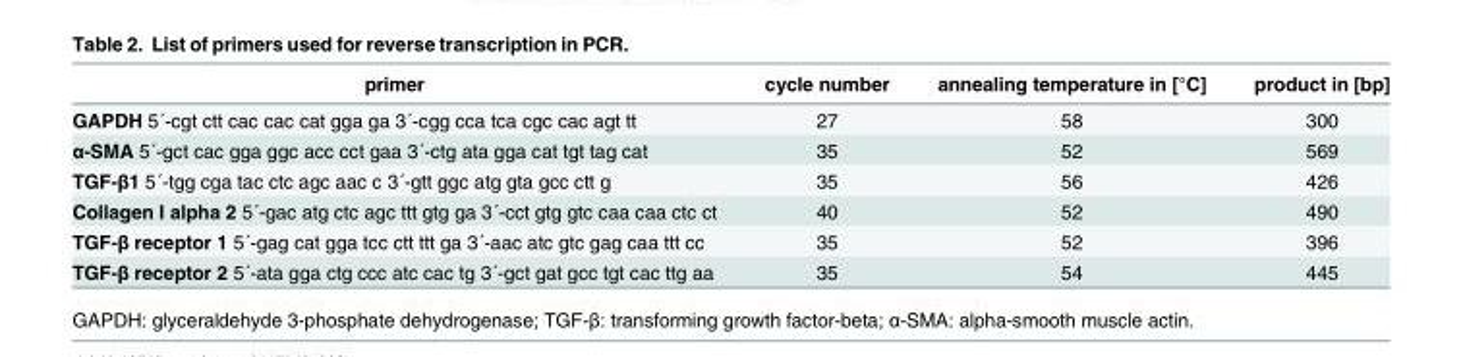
<table><thead><tr><td>primer</td><td>cycle number</td><td>annealing temperature in [°C]</td><td>product in [bp]</td></tr></thead><tbody><tr><td>GAPDH 5´-cgt ctt cac cac cat gga ga 3´-cgg cca tca cgc cac agt tt</td><td>27</td><td>58</td><td>300</td></tr><tr><td>α-SMA 5´-gct cac gga ggc acc cct gaa 3´-ctg ata gga cat tgt tag cat</td><td>35</td><td>52</td><td>569</td></tr><tr><td>TGF-β1 5´-tgg cga tac ctc agc aac c 3´-gtt ggc atg gta gcc ctt g</td><td>35</td><td>56</td><td>426</td></tr><tr><td>Collagen I alpha 2 5´-gac atg ctc agc ttt gtg ga 3´-cct gtg gtc caa caa ctc ct</td><td>40</td><td>52</td><td>490</td></tr><tr><td>TGF-β receptor 1 5´-gag cat gga tcc ctt ttt ga 3´-aac atc gtc gag caa ttt cc</td><td>35</td><td>52</td><td>396</td></tr><tr><td>TGF-β receptor 2 5´-ata gga ctg ccc atc cac tg 3´-gct gat gcc tgt cac ttg aa</td><td>35</td><td>54</td><td>445</td></tr></tbody></table>